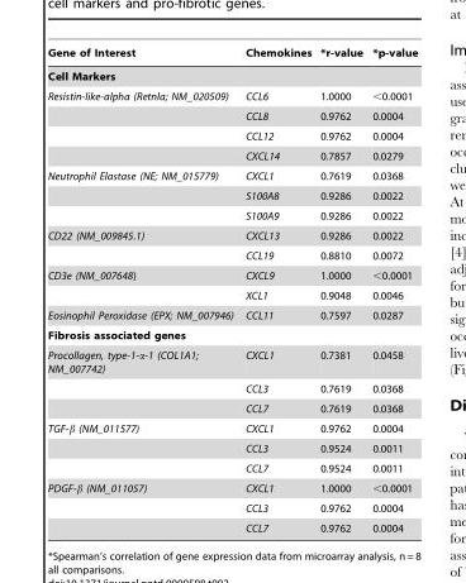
<table><thead><tr><td>Gene of Interest</td><td>Chemokines</td><td>*r-value</td><td>*p-value</td></tr></thead><tbody><tr><td colspan="4">Cell Markers</td></tr><tr><td rowspan="4">Resistin-like-alpha (Retnla; NM_020509)</td><td>CCL6</td><td>1.0000</td><td>&lt;0.0001</td></tr><tr><td>CCL8</td><td>0.9762</td><td>0.0004</td></tr><tr><td>CCL12</td><td>0.9762</td><td>0.0004</td></tr><tr><td>CXCL14</td><td>0.7857</td><td>0.0279</td></tr><tr><td rowspan="3">Neutrophil Elastase (NE; NM_015779)</td><td>CXCL1</td><td>0.7619</td><td>0.0368</td></tr><tr><td>S100A8</td><td>0.9286</td><td>0.0022</td></tr><tr><td>S100A9</td><td>0.9286</td><td>0.0022</td></tr><tr><td rowspan="2">CD22 (NM_009845.1)</td><td>CXCL13</td><td>0.9286</td><td>0.0022</td></tr><tr><td>CCL19</td><td>0.8810</td><td>0.0072</td></tr><tr><td rowspan="2">CD3e (NM_007648)</td><td>CXCL9</td><td>1.0000</td><td>&lt;0.0001</td></tr><tr><td>XCL1</td><td>0.9048</td><td>0.0046</td></tr><tr><td>Eosinophil Peroxidase (EPX; NM_007946)</td><td>CCL11</td><td>0.7597</td><td>0.0287</td></tr><tr><td colspan="4">Fibrosis associated genes</td></tr><tr><td rowspan="3">Procollagen, type-1-α-1 (COL1A1; NM_007742)</td><td>CXCL1</td><td>0.7381</td><td>0.0458</td></tr><tr><td>CCL3</td><td>0.7619</td><td>0.0368</td></tr><tr><td>CCL7</td><td>0.7619</td><td>0.0368</td></tr><tr><td rowspan="3">TGF-β (NM_011577)</td><td>CXCL1</td><td>0.9762</td><td>0.0004</td></tr><tr><td>CCL3</td><td>0.9524</td><td>0.0011</td></tr><tr><td>CCL7</td><td>0.9524</td><td>0.0011</td></tr><tr><td rowspan="3">PDGF-β (NM_011057)</td><td>CXCL1</td><td>1.0000</td><td>&lt;0.0001</td></tr><tr><td>CCL3</td><td>0.9762</td><td>0.0004</td></tr><tr><td>CCL7</td><td>0.9762</td><td>0.0004</td></tr></tbody></table>